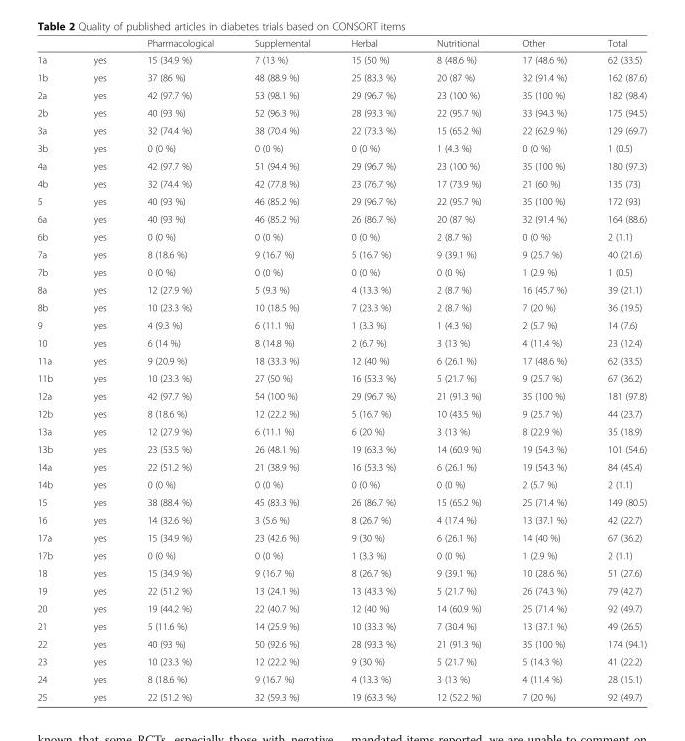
<table><thead><tr><td></td><td></td><td>Pharmacological</td><td>Supplemental</td><td>Herbal</td><td>Nutritional</td><td>Other</td><td>Total</td></tr></thead><tbody><tr><td>1a</td><td>yes</td><td>15 (34.9 %)</td><td>7 (13 %)</td><td>15 (50 %)</td><td>8 (48.6 %)</td><td>17 (48.6 %)</td><td>62 (33.5)</td></tr><tr><td>1b</td><td>yes</td><td>37 (86 %)</td><td>48 (88.9 %)</td><td>25 (83.3 %)</td><td>20 (87 %)</td><td>32 (91.4 %)</td><td>162 (87.6)</td></tr><tr><td>2a</td><td>yes</td><td>42 (97.7 %)</td><td>53 (98.1 %)</td><td>29 (96.7 %)</td><td>23 (100 %)</td><td>35 (100 %)</td><td>182 (98.4)</td></tr><tr><td>2b</td><td>yes</td><td>40 (93 %)</td><td>52 (96.3 %)</td><td>28 (93.3 %)</td><td>22 (95.7 %)</td><td>33 (94.3 %)</td><td>175 (94.5)</td></tr><tr><td>3a</td><td>yes</td><td>32 (74.4 %)</td><td>38 (70.4 %)</td><td>22 (73.3 %)</td><td>15 (65.2 %)</td><td>22 (62.9 %)</td><td>129 (69.7)</td></tr><tr><td>3b</td><td>yes</td><td>0 (0 %)</td><td>0 (0 %)</td><td>0 (0 %)</td><td>1 (4.3 %)</td><td>0 (0 %)</td><td>1 (0.5)</td></tr><tr><td>4a</td><td>yes</td><td>42 (97.7 %)</td><td>51 (94.4 %)</td><td>29 (96.7 %)</td><td>23 (100 %)</td><td>35 (100 %)</td><td>180 (97.3)</td></tr><tr><td>4b</td><td>yes</td><td>32 (74.4 %)</td><td>42 (77.8 %)</td><td>23 (76.7 %)</td><td>17 (73.9 %)</td><td>21 (60 %)</td><td>135 (73)</td></tr><tr><td>5</td><td>yes</td><td>40 (93 %)</td><td>46 (85.2 %)</td><td>29 (96.7 %)</td><td>22 (95.7 %)</td><td>35 (100 %)</td><td>172 (93)</td></tr><tr><td>6a</td><td>yes</td><td>40 (93 %)</td><td>46 (85.2 %)</td><td>26 (86.7 %)</td><td>20 (87 %)</td><td>32 (91.4 %)</td><td>164 (88.6)</td></tr><tr><td>6b</td><td>yes</td><td>0 (0 %)</td><td>0 (0 %)</td><td>0 (0 %)</td><td>2 (8.7 %)</td><td>0 (0 %)</td><td>2 (1.1)</td></tr><tr><td>7a</td><td>yes</td><td>8 (18.6 %)</td><td>9 (16.7 %)</td><td>5 (16.7 %)</td><td>9 (39.1 %)</td><td>9 (25.7 %)</td><td>40 (21.6)</td></tr><tr><td>7b</td><td>yes</td><td>0 (0 %)</td><td>0 (0 %)</td><td>0 (0 %)</td><td>0 (0 %)</td><td>1 (2.9 %)</td><td>1 (0.5)</td></tr><tr><td>8a</td><td>yes</td><td>12 (27.9 %)</td><td>5 (9.3 %)</td><td>4 (13.3 %)</td><td>2 (8.7 %)</td><td>16 (45.7 %)</td><td>39 (21.1)</td></tr><tr><td>8b</td><td>yes</td><td>10 (23.3 %)</td><td>10 (18.5 %)</td><td>7 (23.3 %)</td><td>2 (8.7 %)</td><td>7 (20 %)</td><td>36 (19.5)</td></tr><tr><td>9</td><td>yes</td><td>4 (9.3 %)</td><td>6 (11.1 %)</td><td>1 (3.3 %)</td><td>1 (4.3 %)</td><td>2 (5.7 %)</td><td>14 (7.6)</td></tr><tr><td>10</td><td>yes</td><td>6 (14 %)</td><td>8 (14.8 %)</td><td>2 (6.7 %)</td><td>3 (13 %)</td><td>4 (11.4 %)</td><td>23 (12.4)</td></tr><tr><td>11a</td><td>yes</td><td>9 (20.9 %)</td><td>18 (33.3 %)</td><td>12 (40 %)</td><td>6 (26.1 %)</td><td>17 (48.6 %)</td><td>62 (33.5)</td></tr><tr><td>11b</td><td>yes</td><td>10 (23.3 %)</td><td>27 (50 %)</td><td>16 (53.3 %)</td><td>5 (21.7 %)</td><td>9 (25.7 %)</td><td>67 (36.2)</td></tr><tr><td>12a</td><td>yes</td><td>42 (97.7 %)</td><td>54 (100 %)</td><td>29 (96.7 %)</td><td>21 (91.3 %)</td><td>35 (100 %)</td><td>181 (97.8)</td></tr><tr><td>12b</td><td>yes</td><td>8 (18.6 %)</td><td>12 (22.2 %)</td><td>5 (16.7 %)</td><td>10 (43.5 %)</td><td>9 (25.7 %)</td><td>44 (23.7)</td></tr><tr><td>13a</td><td>yes</td><td>12 (27.9 %)</td><td>6 (11.1 %)</td><td>6 (20 %)</td><td>3 (13 %)</td><td>8 (22.9 %)</td><td>35 (18.9)</td></tr><tr><td>13b</td><td>yes</td><td>23 (53.5 %)</td><td>26 (48.1 %)</td><td>19 (63.3 %)</td><td>14 (60.9 %)</td><td>19 (54.3 %)</td><td>101 (54.6)</td></tr><tr><td>14a</td><td>yes</td><td>22 (51.2 %)</td><td>21 (38.9 %)</td><td>16 (53.3 %)</td><td>6 (26.1 %)</td><td>19 (54.3 %)</td><td>84 (45.4)</td></tr><tr><td>14b</td><td>yes</td><td>0 (0 %)</td><td>0 (0 %)</td><td>0 (0 %)</td><td>0 (0 %)</td><td>2 (5.7 %)</td><td>2 (1.1)</td></tr><tr><td>15</td><td>yes</td><td>38 (88.4 %)</td><td>45 (83.3 %)</td><td>26 (86.7 %)</td><td>15 (65.2 %)</td><td>25 (71.4 %)</td><td>149 (80.5)</td></tr><tr><td>16</td><td>yes</td><td>14 (32.6 %)</td><td>3 (5.6 %)</td><td>8 (26.7 %)</td><td>4 (17.4 %)</td><td>13 (37.1 %)</td><td>42 (22.7)</td></tr><tr><td>17a</td><td>yes</td><td>15 (34.9 %)</td><td>23 (42.6 %)</td><td>9 (30 %)</td><td>6 (26.1 %)</td><td>14 (40 %)</td><td>67 (36.2)</td></tr><tr><td>17b</td><td>yes</td><td>0 (0 %)</td><td>0 (0 %)</td><td>1 (3.3 %)</td><td>0 (0 %)</td><td>1 (2.9 %)</td><td>2 (1.1)</td></tr><tr><td>18</td><td>yes</td><td>15 (34.9 %)</td><td>9 (16.7 %)</td><td>8 (26.7 %)</td><td>9 (39.1 %)</td><td>10 (28.6 %)</td><td>51 (27.6)</td></tr><tr><td>19</td><td>yes</td><td>22 (51.2 %)</td><td>13 (24.1 %)</td><td>13 (43.3 %)</td><td>5 (21.7 %)</td><td>26 (74.3 %)</td><td>79 (42.7)</td></tr><tr><td>20</td><td>yes</td><td>19 (44.2 %)</td><td>22 (40.7 %)</td><td>12 (40 %)</td><td>14 (60.9 %)</td><td>25 (71.4 %)</td><td>92 (49.7)</td></tr><tr><td>21</td><td>yes</td><td>5 (11.6 %)</td><td>14 (25.9 %)</td><td>10 (33.3 %)</td><td>7 (30.4 %)</td><td>13 (37.1 %)</td><td>49 (26.5)</td></tr><tr><td>22</td><td>yes</td><td>40 (93 %)</td><td>50 (92.6 %)</td><td>28 (93.3 %)</td><td>21 (91.3 %)</td><td>35 (100 %)</td><td>174 (94.1)</td></tr><tr><td>23</td><td>yes</td><td>10 (23.3 %)</td><td>12 (22.2 %)</td><td>9 (30 %)</td><td>5 (21.7 %)</td><td>5 (14.3 %)</td><td>41 (22.2)</td></tr><tr><td>24</td><td>yes</td><td>8 (18.6 %)</td><td>9 (16.7 %)</td><td>4 (13.3 %)</td><td>3 (13 %)</td><td>4 (11.4 %)</td><td>28 (15.1)</td></tr><tr><td>25</td><td>yes</td><td>22 (51.2 %)</td><td>32 (59.3 %)</td><td>19 (63.3 %)</td><td>12 (52.2 %)</td><td>7 (20 %)</td><td>92 (49.7)</td></tr></tbody></table>